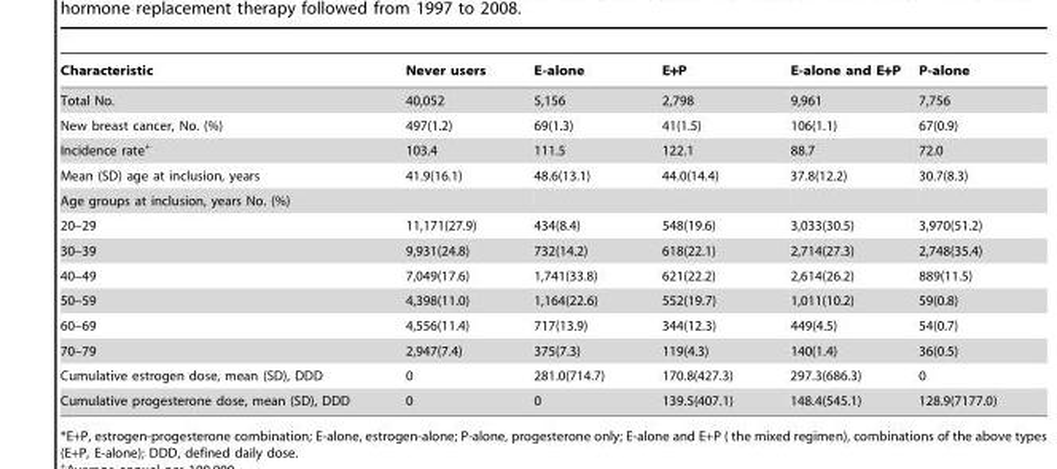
<table><thead><tr><td>Characteristic</td><td>Never users</td><td>E-alone</td><td>E+P</td><td>E-alone and E+P</td><td>P-alone</td></tr></thead><tbody><tr><td>Total No.</td><td>40,052</td><td>5,156</td><td>2,798</td><td>9,961</td><td>7,756</td></tr><tr><td>New breast cancer, No. (%)</td><td>497(1.2)</td><td>69(1.3)</td><td>41(1.5)</td><td>106(1.1)</td><td>67(0.9)</td></tr><tr><td>Incidence rate+</td><td>103.4</td><td>111.5</td><td>122.1</td><td>88.7</td><td>72.0</td></tr><tr><td>Mean (SD) age at inclusion, years</td><td>41.9(16.1)</td><td>48.6(13.1)</td><td>44.0(14.4)</td><td>37.8(12.2)</td><td>30.7(8.3)</td></tr><tr><td colspan="6">Age groups at inclusion, years No. (%)</td></tr><tr><td>20–29</td><td>11,171(27.9)</td><td>434(8.4)</td><td>548(19.6)</td><td>3,033(30.5)</td><td>3,970(51.2)</td></tr><tr><td>30–39</td><td>9,931(24.8)</td><td>732(14.2)</td><td>618(22.1)</td><td>2,714(27.3)</td><td>2,748(35.4)</td></tr><tr><td>40–49</td><td>7,049(17.6)</td><td>1,741(33.8)</td><td>621(22.2)</td><td>2,614(26.2)</td><td>889(11.5)</td></tr><tr><td>50–59</td><td>4,398(11.0)</td><td>1,164(22.6)</td><td>552(19.7)</td><td>1,011(10.2)</td><td>59(0.8)</td></tr><tr><td>60–69</td><td>4,556(11.4)</td><td>717(13.9)</td><td>344(12.3)</td><td>449(4.5)</td><td>54(0.7)</td></tr><tr><td>70–79</td><td>2,947(7.4)</td><td>375(7.3)</td><td>119(4.3)</td><td>140(1.4)</td><td>36(0.5)</td></tr><tr><td>Cumulative estrogen dose, mean (SD), DDD</td><td>0</td><td>281.0(714.7)</td><td>170.8(427.3)</td><td>297.3(686.3)</td><td>0</td></tr><tr><td>Cumulative progesterone dose, mean (SD), DDD</td><td>0</td><td>0</td><td>139.5(407.1)</td><td>148.4(545.1)</td><td>128.9(7177.0)</td></tr></tbody></table>